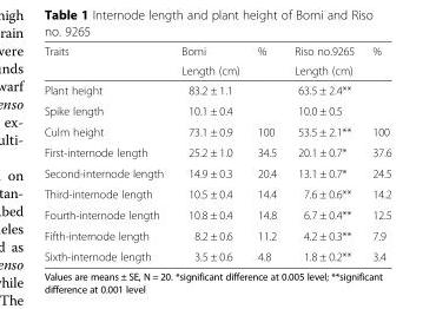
<table><thead><tr><td rowspan="2">Traits</td><td rowspan="2">Bomi Length (cm)</td><td rowspan="2">%</td><td rowspan="2">Riso no.9265 Length (cm)</td><td rowspan="2">%</td></tr><tr></tr></thead><tbody><tr><td>Plant height</td><td>83.2 ± 1.1</td><td></td><td>63.5 ± 2.4**</td><td></td></tr><tr><td>Spike length</td><td>10.1 ± 0.4</td><td></td><td>10.0 ± 0.5</td><td></td></tr><tr><td>Culm height</td><td>73.1 ± 0.9</td><td>100</td><td>53.5 ± 2.1**</td><td>100</td></tr><tr><td>First-internode length</td><td>25.2 ± 1.0</td><td>34.5</td><td>20.1 ± 0.7*</td><td>37.6</td></tr><tr><td>Second-internode length</td><td>14.9 ± 0.3</td><td>20.4</td><td>13.1 ± 0.7*</td><td>24.5</td></tr><tr><td>Third-internode length</td><td>10.5 ± 0.4</td><td>14.4</td><td>7.6 ± 0.6**</td><td>14.2</td></tr><tr><td>Fourth-internode length</td><td>10.8 ± 0.4</td><td>14.8</td><td>6.7 ± 0.4**</td><td>12.5</td></tr><tr><td>Fifth-internode length</td><td>8.2 ± 0.6</td><td>11.2</td><td>4.2 ± 0.3**</td><td>7.9</td></tr><tr><td>Sixth-internode length</td><td>3.5 ± 0.6</td><td>4.8</td><td>1.8 ± 0.2**</td><td>3.4</td></tr></tbody></table>